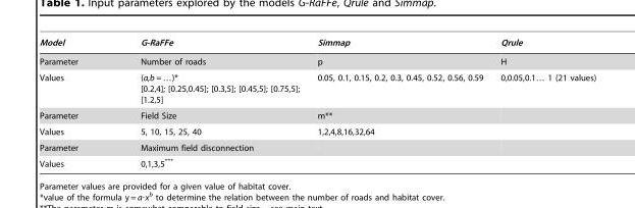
<table><thead><tr><td>Model</td><td>G-RaFFe</td><td>Simmap</td><td>Qrule</td></tr></thead><tbody><tr><td>Parameter</td><td>Number of roads</td><td>p</td><td>H</td></tr><tr><td>Values</td><td>(a,b = …)* [0.2,4]; [0.25,0.45]; [0.3,5]; [0.45,5]; [0.75,5]; [1.2,5]</td><td>0.05, 0.1, 0.15, 0.2, 0.3, 0.45, 0.52, 0.56, 0.59</td><td>0,0.05,0.1… 1 (21 values)</td></tr><tr><td>Parameter</td><td>Field Size</td><td>m**</td><td></td></tr><tr><td>Values</td><td>5, 10, 15, 25, 40</td><td>1,2,4,8,16,32,64</td><td></td></tr><tr><td>Parameter</td><td>Maximum field disconnection</td><td></td><td></td></tr><tr><td>Values</td><td>0,1,3,5***</td><td></td><td></td></tr></tbody></table>